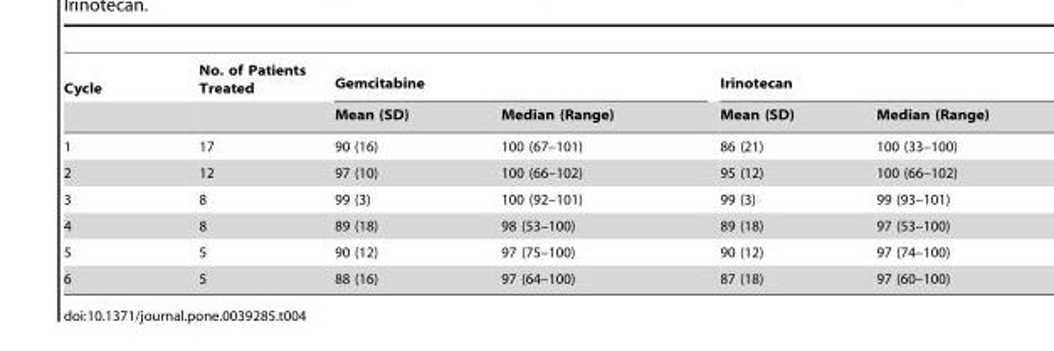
<table><thead><tr><td rowspan="2">Cycle</td><td rowspan="2">No. of Patients Treated</td><td colspan="2">Gemcitabine</td><td colspan="2">Irinotecan</td></tr><tr><td>Mean (SD)</td><td>Median (Range)</td><td>Mean (SD)</td><td>Median (Range)</td></tr></thead><tbody><tr><td>1</td><td>17</td><td>90 (16)</td><td>100 (67–101)</td><td>86 (21)</td><td>100 (33–100)</td></tr><tr><td>2</td><td>12</td><td>97 (10)</td><td>100 (66–102)</td><td>95 (12)</td><td>100 (66–102)</td></tr><tr><td>3</td><td>8</td><td>99 (3)</td><td>100 (92–101)</td><td>99 (3)</td><td>99 (93–101)</td></tr><tr><td>4</td><td>8</td><td>89 (18)</td><td>98 (53–100)</td><td>89 (18)</td><td>97 (53–100)</td></tr><tr><td>5</td><td>5</td><td>90 (12)</td><td>97 (75–100)</td><td>90 (12)</td><td>97 (74–100)</td></tr><tr><td>6</td><td>5</td><td>88 (16)</td><td>97 (64–100)</td><td>87 (18)</td><td>97 (60–100)</td></tr></tbody></table>